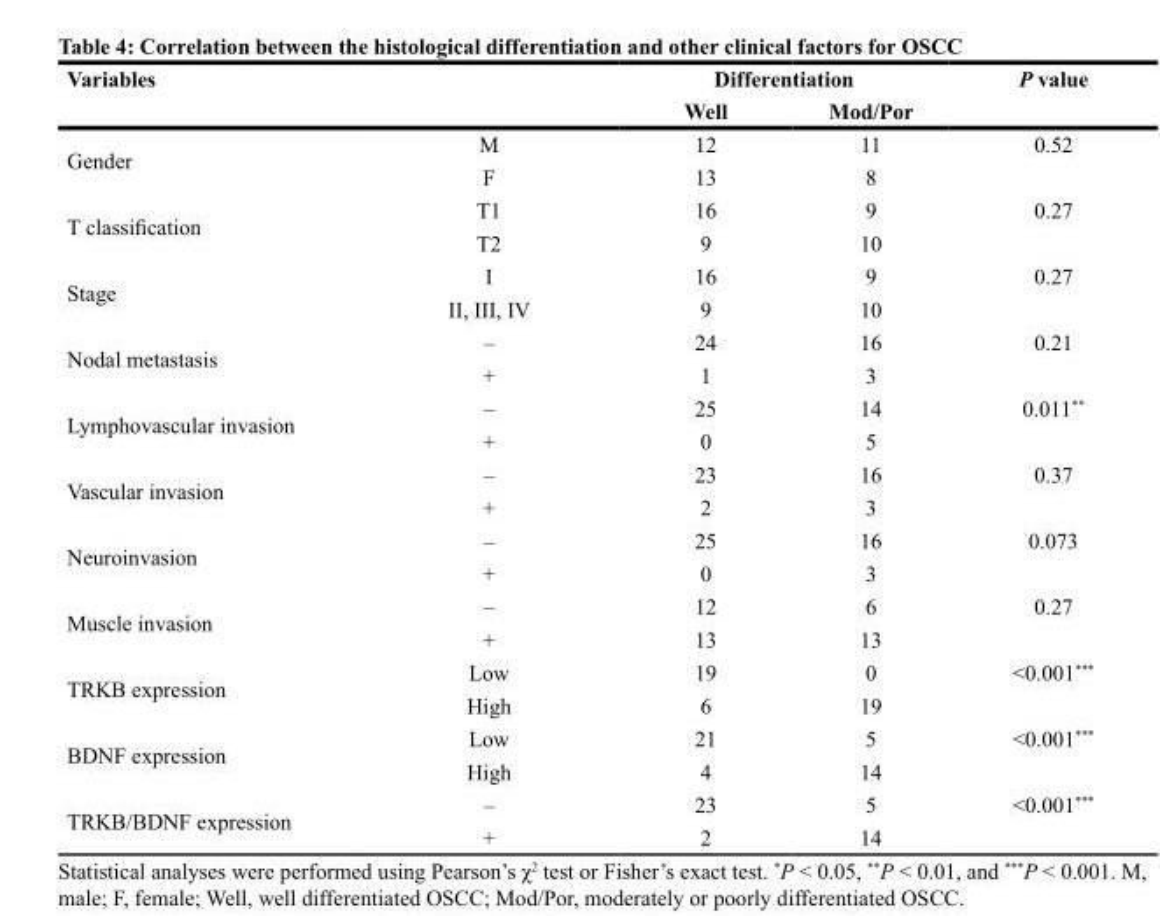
<table><thead><tr><td rowspan="2">Variables</td><td rowspan="2"></td><td colspan="2">Differentiation</td><td rowspan="2">P value</td></tr><tr><td>Well</td><td>Mod/Por</td></tr></thead><tbody><tr><td rowspan="2">Gender</td><td>M</td><td>12</td><td>11</td><td>0.52</td></tr><tr><td>F</td><td>13</td><td>8</td><td></td></tr><tr><td rowspan="2">T classification</td><td>T1</td><td>16</td><td>9</td><td>0.27</td></tr><tr><td>T2</td><td>9</td><td>10</td><td></td></tr><tr><td rowspan="2">Stage</td><td>I</td><td>16</td><td>9</td><td>0.27</td></tr><tr><td>II, III, IV</td><td>9</td><td>10</td><td></td></tr><tr><td rowspan="2">Nodal metastasis</td><td>–</td><td>24</td><td>16</td><td>0.21</td></tr><tr><td>+</td><td>1</td><td>3</td><td></td></tr><tr><td rowspan="2">Lymphovascular invasion</td><td>–</td><td>25</td><td>14</td><td>0.011**</td></tr><tr><td>+</td><td>0</td><td>5</td><td></td></tr><tr><td rowspan="2">Vascular invasion</td><td>–</td><td>23</td><td>16</td><td>0.37</td></tr><tr><td>+</td><td>2</td><td>3</td><td></td></tr><tr><td rowspan="2">Neuroinvasion</td><td>–</td><td>25</td><td>16</td><td>0.073</td></tr><tr><td>+</td><td>0</td><td>3</td><td></td></tr><tr><td rowspan="2">Muscle invasion</td><td>–</td><td>12</td><td>6</td><td>0.27</td></tr><tr><td>+</td><td>13</td><td>13</td><td></td></tr><tr><td rowspan="2">TRKB expression</td><td>Low</td><td>19</td><td>0</td><td>&lt;0.001***</td></tr><tr><td>High</td><td>6</td><td>19</td><td></td></tr><tr><td rowspan="2">BDNF expression</td><td>Low</td><td>21</td><td>5</td><td>&lt;0.001***</td></tr><tr><td>High</td><td>4</td><td>14</td><td></td></tr><tr><td rowspan="2">TRKB/BDNF expression</td><td>–</td><td>23</td><td>5</td><td>&lt;0.001***</td></tr><tr><td>+</td><td>2</td><td>14</td><td></td></tr></tbody></table>